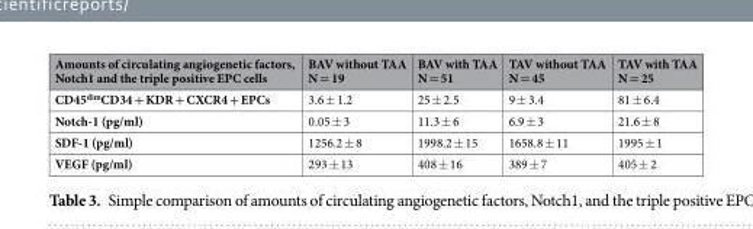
<table><thead><tr><td>Amounts of circulating angiogenetic factors, Notch1 and the triple positive EPC cells</td><td>BAV without TAA N = 19</td><td>BAV with TAA N = 51</td><td>TAV without TAA N = 45</td><td>TAV with TAA N = 25</td></tr></thead><tbody><tr><td>CD45<sup>dim</sup>CD34 + KDR + CXCR4 + EPCs</td><td>3.6 ± 1.2</td><td>25 ± 2.5</td><td>9 ± 3.4</td><td>81 ± 6.4</td></tr><tr><td>Notch-1 (pg/ml)</td><td>0.05 ± 3</td><td>11.3 ± 6</td><td>6.9 ± 3</td><td>21.6 ± 8</td></tr><tr><td>SDF-1 (pg/ml)</td><td>1256.2 ± 8</td><td>1998.2 ± 15</td><td>1658.8 ± 11</td><td>1995 ± 1</td></tr><tr><td>VEGF (pg/ml)</td><td>293 ± 13</td><td>408 ± 16</td><td>389 ± 7</td><td>405 ± 2</td></tr></tbody></table>